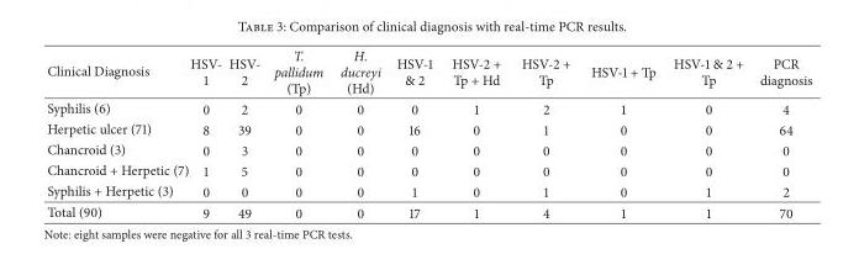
<table><thead><tr><td>Clinical Diagnosis</td><td>HSV- 1</td><td>HSV- 2</td><td>T. pallidum (Tp)</td><td>H. ducreyi (Hd)</td><td>HSV-1 &amp; 2</td><td>HSV-2 + Tp + Hd</td><td>HSV-2 + Tp</td><td>HSV-1 + Tp</td><td>HSV-1 &amp; 2 + Tp</td><td>PCR diagnosis</td></tr></thead><tbody><tr><td>Syphilis (6)</td><td>0</td><td>2</td><td>0</td><td>0</td><td>0</td><td>1</td><td>2</td><td>1</td><td>0</td><td>4</td></tr><tr><td>Herpetic ulcer (71)</td><td>8</td><td>39</td><td>0</td><td>0</td><td>16</td><td>0</td><td>1</td><td>0</td><td>0</td><td>64</td></tr><tr><td>Chancroid (3)</td><td>0</td><td>3</td><td>0</td><td>0</td><td>0</td><td>0</td><td>0</td><td>0</td><td>0</td><td>0</td></tr><tr><td>Chancroid + Herpetic (7)</td><td>1</td><td>5</td><td>0</td><td>0</td><td>0</td><td>0</td><td>0</td><td>0</td><td>0</td><td>0</td></tr><tr><td>Syphilis + Herpetic (3)</td><td>0</td><td>0</td><td>0</td><td>0</td><td>1</td><td>0</td><td>1</td><td>0</td><td>1</td><td>2</td></tr><tr><td>Total (90)</td><td>9</td><td>49</td><td>0</td><td>0</td><td>17</td><td>1</td><td>4</td><td>1</td><td>1</td><td>70</td></tr></tbody></table>